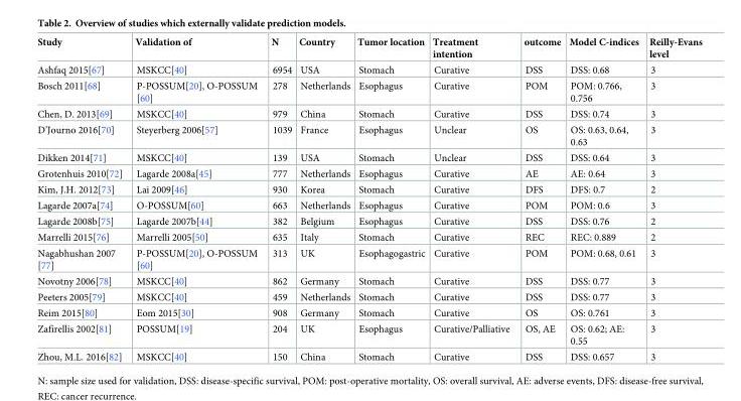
<table><thead><tr><td>Study</td><td>Validation of</td><td>N</td><td>Country</td><td>Tumor location</td><td>Treatment intention</td><td>outcome</td><td>Model C-indices</td><td>Reilly-Evans level</td></tr></thead><tbody><tr><td>Ashfaq 2015[67]</td><td>MSKCC[40]</td><td>6954</td><td>USA</td><td>Stomach</td><td>Curative</td><td>DSS</td><td>DSS: 0.68</td><td>3</td></tr><tr><td>Bosch 2011[68]</td><td>P-POSSUM[20], O-POSSUM [60]</td><td>278</td><td>Netherlands</td><td>Esophagus</td><td>Curative</td><td>POM</td><td>POM: 0.766, 0.756</td><td>3</td></tr><tr><td>Chen, D. 2013[69]</td><td>MSKCC[40]</td><td>979</td><td>China</td><td>Stomach</td><td>Curative</td><td>DSS</td><td>DSS: 0.74</td><td>3</td></tr><tr><td>D’Journo 2016[70]</td><td>Steyerberg 2006[57]</td><td>1039</td><td>France</td><td>Esophagus</td><td>Unclear</td><td>OS</td><td>OS: 0.63, 0.64, 0.63</td><td>3</td></tr><tr><td>Dikken 2014[71]</td><td>MSKCC[40]</td><td>139</td><td>USA</td><td>Stomach</td><td>Unclear</td><td>DSS</td><td>DSS: 0.64</td><td>3</td></tr><tr><td>Grotenhuis 2010[72]</td><td>Lagarde 2008a[45]</td><td>777</td><td>Netherlands</td><td>Esophagus</td><td>Curative</td><td>AE</td><td>AE: 0.64</td><td>3</td></tr><tr><td>Kim, J.H. 2012[73]</td><td>Lai 2009[46]</td><td>930</td><td>Korea</td><td>Stomach</td><td>Curative</td><td>DFS</td><td>DFS: 0.7</td><td>2</td></tr><tr><td>Lagarde 2007a[74]</td><td>O-POSSUM[60]</td><td>663</td><td>Netherlands</td><td>Esophagus</td><td>Curative</td><td>POM</td><td>POM: 0.6</td><td>3</td></tr><tr><td>Lagarde 2008b[75]</td><td>Lagarde 2007b[44]</td><td>382</td><td>Belgium</td><td>Esophagus</td><td>Curative</td><td>DSS</td><td>DSS: 0.76</td><td>2</td></tr><tr><td>Marrelli 2015[76]</td><td>Marrelli 2005[50]</td><td>635</td><td>Italy</td><td>Stomach</td><td>Curative</td><td>REC</td><td>REC: 0.889</td><td>2</td></tr><tr><td>Nagabhushan 2007 [77]</td><td>P-POSSUM[20], O-POSSUM [60]</td><td>313</td><td>UK</td><td>Esophagogastric</td><td>Curative</td><td>POM</td><td>POM: 0.68, 0.61</td><td>3</td></tr><tr><td>Novotny 2006[78]</td><td>MSKCC[40]</td><td>862</td><td>Germany</td><td>Stomach</td><td>Curative</td><td>DSS</td><td>DSS: 0.77</td><td>3</td></tr><tr><td>Peeters 2005[79]</td><td>MSKCC[40]</td><td>459</td><td>Netherlands</td><td>Stomach</td><td>Curative</td><td>DSS</td><td>DSS: 0.77</td><td>3</td></tr><tr><td>Reim 2015[80]</td><td>Eom 2015[30]</td><td>908</td><td>Germany</td><td>Stomach</td><td>Curative</td><td>OS</td><td>OS: 0.761</td><td>3</td></tr><tr><td>Zafirellis 2002[81]</td><td>POSSUM[19]</td><td>204</td><td>UK</td><td>Esophagus</td><td>Curative/Palliative</td><td>OS, AE</td><td>OS: 0.62; AE: 0.55</td><td>3</td></tr><tr><td>Zhou, M.L. 2016[82]</td><td>MSKCC[40]</td><td>150</td><td>China</td><td>Stomach</td><td>Curative</td><td>DSS</td><td>DSS: 0.657</td><td>3</td></tr></tbody></table>